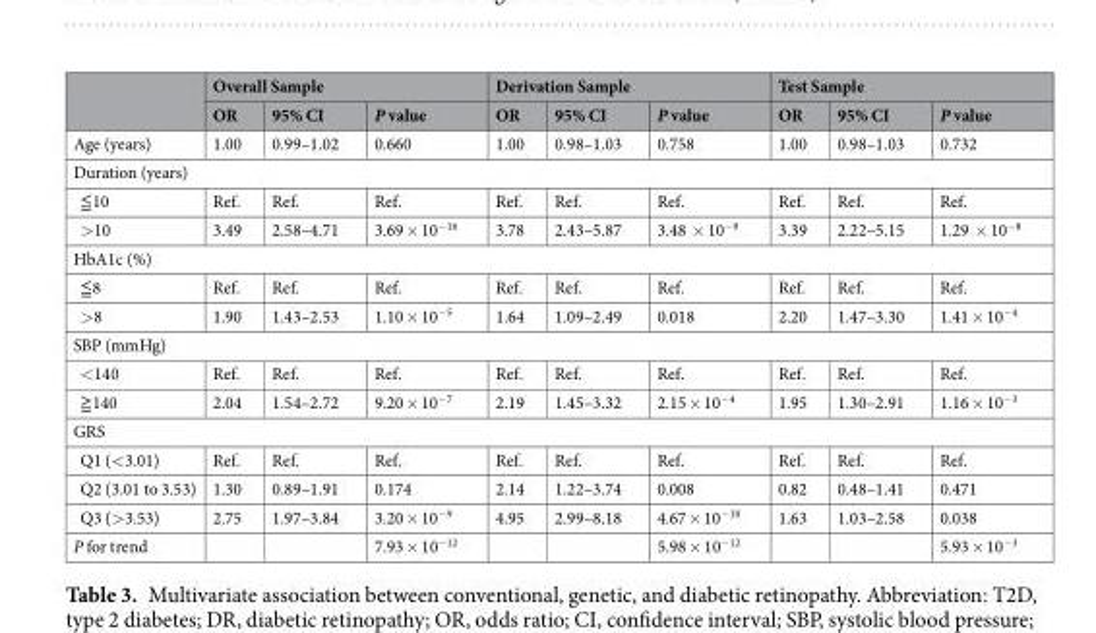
<table><thead><tr><td rowspan="2"></td><td colspan="3">Overall Sample</td><td colspan="3">Derivation Sample</td><td colspan="3">Test Sample</td></tr><tr><td>OR</td><td>95% CI</td><td>P value</td><td>OR</td><td>95% CI</td><td>P value</td><td>OR</td><td>95% CI</td><td>P value</td></tr></thead><tbody><tr><td>Age (years)</td><td>1.00</td><td>0.99–1.02</td><td>0.660</td><td>1.00</td><td>0.98–1.03</td><td>0.758</td><td>1.00</td><td>0.98–1.03</td><td>0.732</td></tr><tr><td colspan="10">Duration (years)</td></tr><tr><td>≦10</td><td>Ref.</td><td>Ref.</td><td>Ref.</td><td>Ref.</td><td>Ref.</td><td>Ref.</td><td>Ref.</td><td>Ref.</td><td>Ref.</td></tr><tr><td>&gt;10</td><td>3.49</td><td>2.58–4.71</td><td>3.69 × 10<sup>−16</sup></td><td>3.78</td><td>2.43–5.87</td><td>3.48 × 10<sup>−9</sup></td><td>3.39</td><td>2.22–5.15</td><td>1.29 × 10<sup>−8</sup></td></tr><tr><td colspan="10">HbA1c (%)</td></tr><tr><td>≦8</td><td>Ref.</td><td>Ref.</td><td>Ref.</td><td>Ref.</td><td>Ref.</td><td>Ref.</td><td>Ref.</td><td>Ref.</td><td>Ref.</td></tr><tr><td>&gt;8</td><td>1.90</td><td>1.43–2.53</td><td>1.10 × 10<sup>−5</sup></td><td>1.64</td><td>1.09–2.49</td><td>0.018</td><td>2.20</td><td>1.47–3.30</td><td>1.41 × 10<sup>−4</sup></td></tr><tr><td colspan="10">SBP (mmHg)</td></tr><tr><td>&lt;140</td><td>Ref.</td><td>Ref.</td><td>Ref.</td><td>Ref.</td><td>Ref.</td><td>Ref.</td><td>Ref.</td><td>Ref.</td><td>Ref.</td></tr><tr><td>≧140</td><td>2.04</td><td>1.54–2.72</td><td>9.20 × 10<sup>−7</sup></td><td>2.19</td><td>1.45–3.32</td><td>2.15 × 10<sup>−4</sup></td><td>1.95</td><td>1.30–2.91</td><td>1.16 × 10<sup>−3</sup></td></tr><tr><td colspan="10">GRS</td></tr><tr><td>Q1 (&lt;3.01)</td><td>Ref.</td><td>Ref.</td><td>Ref.</td><td>Ref.</td><td>Ref.</td><td>Ref.</td><td>Ref.</td><td>Ref.</td><td>Ref.</td></tr><tr><td>Q2 (3.01 to 3.53)</td><td>1.30</td><td>0.89–1.91</td><td>0.174</td><td>2.14</td><td>1.22–3.74</td><td>0.008</td><td>0.82</td><td>0.48–1.41</td><td>0.471</td></tr><tr><td>Q3 (&gt;3.53)</td><td>2.75</td><td>1.97–3.84</td><td>3.20 × 10<sup>−9</sup></td><td>4.95</td><td>2.99–8.18</td><td>4.67 × 10<sup>−10</sup></td><td>1.63</td><td>1.03–2.58</td><td>0.038</td></tr><tr><td>P for trend</td><td></td><td></td><td>7.93 × 10<sup>−12</sup></td><td></td><td></td><td>5.98 × 10<sup>−12</sup></td><td></td><td></td><td>5.93 × 10<sup>−3</sup></td></tr></tbody></table>